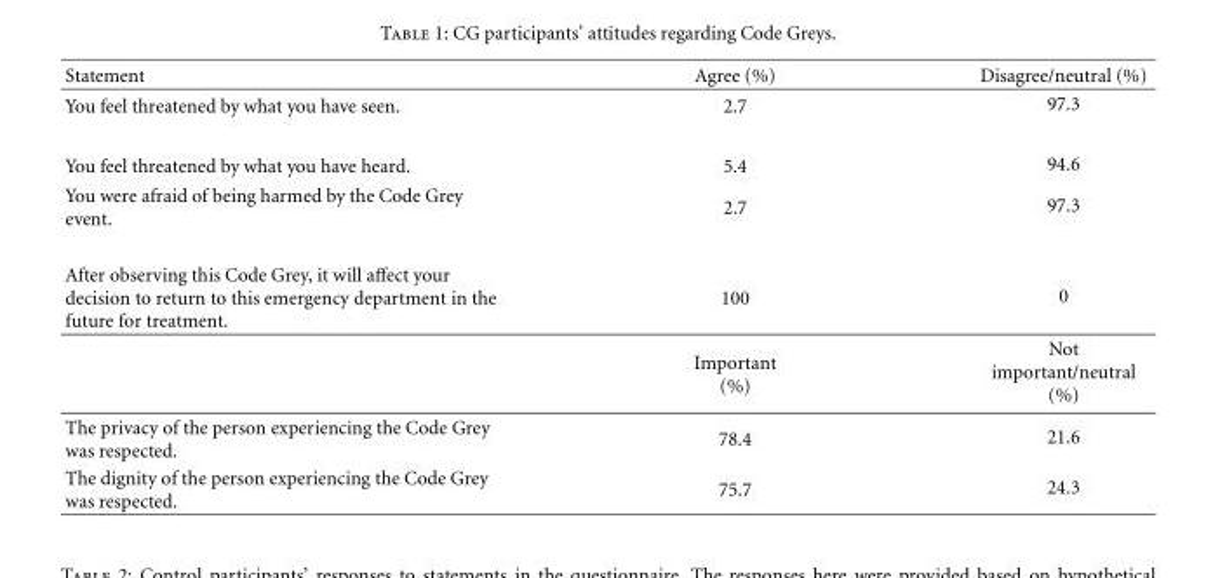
<table><thead><tr><td>Statement</td><td>Agree (%)</td><td>Disagree/neutral (%)</td></tr></thead><tbody><tr><td>You feel threatened by what you have seen.</td><td>2.7</td><td>97.3</td></tr><tr><td>You feel threatened by what you have heard.</td><td>5.4</td><td>94.6</td></tr><tr><td>You were afraid of being harmed by the Code Grey event.</td><td>2.7</td><td>97.3</td></tr><tr><td rowspan="2">After observing this Code Grey, it will affect your decision to return to this emergency department in the future for treatment.</td><td>100</td><td>0</td></tr><tr><td>Important (%)</td><td>Not important/neutral (%)</td></tr><tr><td>The privacy of the person experiencing the Code Grey was respected.</td><td>78.4</td><td>21.6</td></tr><tr><td>The dignity of the person experiencing the Code Grey was respected.</td><td>75.7</td><td>24.3</td></tr></tbody></table>